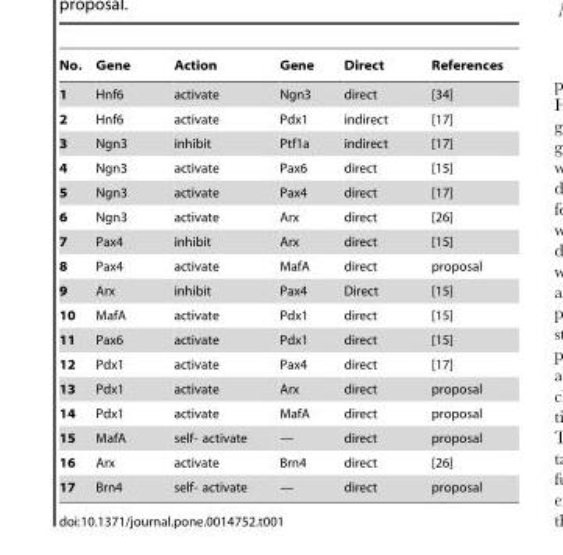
<table><thead><tr><td>No.</td><td>Gene</td><td>Action</td><td>Gene</td><td>Direct</td><td>References</td></tr></thead><tbody><tr><td>1</td><td>Hnf6</td><td>activate</td><td>Ngn3</td><td>direct</td><td>[34]</td></tr><tr><td>2</td><td>Hnf6</td><td>activate</td><td>Pdx1</td><td>indirect</td><td>[17]</td></tr><tr><td>3</td><td>Ngn3</td><td>inhibit</td><td>Ptf1a</td><td>indirect</td><td>[17]</td></tr><tr><td>4</td><td>Ngn3</td><td>activate</td><td>Pax6</td><td>direct</td><td>[15]</td></tr><tr><td>5</td><td>Ngn3</td><td>activate</td><td>Pax4</td><td>direct</td><td>[17]</td></tr><tr><td>6</td><td>Ngn3</td><td>activate</td><td>Arx</td><td>direct</td><td>[26]</td></tr><tr><td>7</td><td>Pax4</td><td>inhibit</td><td>Arx</td><td>direct</td><td>[15]</td></tr><tr><td>8</td><td>Pax4</td><td>activate</td><td>MafA</td><td>direct</td><td>proposal</td></tr><tr><td>9</td><td>Arx</td><td>inhibit</td><td>Pax4</td><td>Direct</td><td>[15]</td></tr><tr><td>10</td><td>MafA</td><td>activate</td><td>Pdx1</td><td>direct</td><td>[15]</td></tr><tr><td>11</td><td>Pax6</td><td>activate</td><td>Pdx1</td><td>direct</td><td>[15]</td></tr><tr><td>12</td><td>Pdx1</td><td>activate</td><td>Pax4</td><td>direct</td><td>[17]</td></tr><tr><td>13</td><td>Pdx1</td><td>activate</td><td>Arx</td><td>direct</td><td>proposal</td></tr><tr><td>14</td><td>Pdx1</td><td>activate</td><td>MafA</td><td>direct</td><td>proposal</td></tr><tr><td>15</td><td>MafA</td><td>self- activate</td><td>—</td><td>direct</td><td>proposal</td></tr><tr><td>16</td><td>Arx</td><td>activate</td><td>Brn4</td><td>direct</td><td>[26]</td></tr><tr><td>17</td><td>Brn4</td><td>self- activate</td><td>—</td><td>direct</td><td>proposal</td></tr></tbody></table>